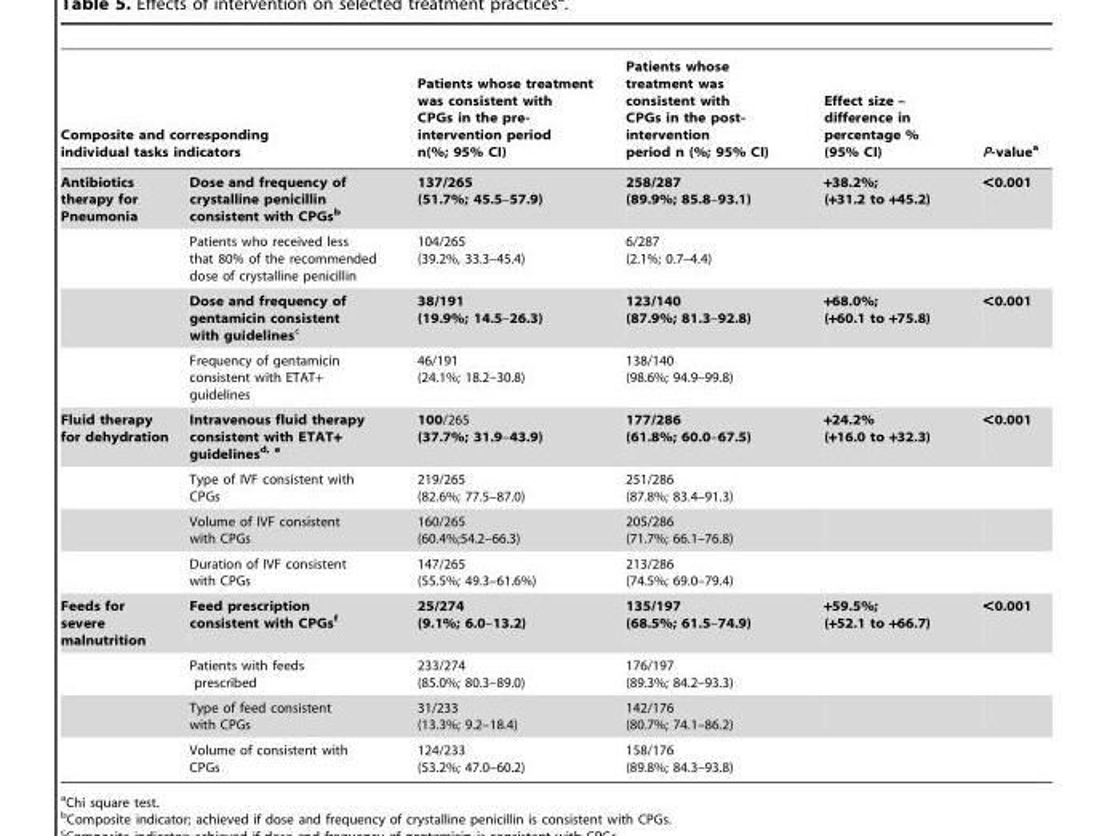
<table><thead><tr><td colspan="2">Composite and corresponding individual tasks indicators</td><td rowspan="2">Patients whose treatment was consistent with CPGs in the pre- intervention period n(%; 95% CI) 137/265 (51.7%; 45.5–57.9)</td><td rowspan="2">Patients whose treatment was consistent with CPGs in the post- intervention period n (%; 95% CI) 258/287 (89.9%; 85.8–93.1)</td><td rowspan="2">Effect size – difference in percentage % (95% CI) +38.2%; (+31.2 to +45.2)</td><td rowspan="2">P-value<sup>a</sup> &lt;0.001</td></tr><tr><td>Antibiotics therapy for Pneumonia</td><td>Dose and frequency of crystalline penicillin consistent with CPGsb</td></tr></thead><tbody><tr><td></td><td>Patients who received less that 80% of the recommended dose of crystalline penicillin</td><td>104/265 (39.2%, 33.3–45.4)</td><td>6/287 (2.1%; 0.7–4.4)</td><td></td><td></td></tr><tr><td></td><td>Dose and frequency of gentamicin consistent with guidelinesc</td><td>38/191 (19.9%; 14.5–26.3)</td><td>123/140 (87.9%; 81.3–92.8)</td><td>+68.0%; (+60.1 to +75.8)</td><td>&lt;0.001</td></tr><tr><td></td><td>Frequency of gentamicin consistent with ETAT+ guidelines</td><td>46/191 (24.1%; 18.2–30.8)</td><td>138/140 (98.6%; 94.9–99.8)</td><td></td><td></td></tr><tr><td rowspan="4">Fluid therapy for dehydration</td><td>Intravenous fluid therapy consistent with ETAT+ guidelinesd, e</td><td>100/265 (37.7%; 31.9–43.9)</td><td>177/286 (61.8%; 60.0–67.5)</td><td>+24.2% (+16.0 to +32.3)</td><td>&lt;0.001</td></tr><tr><td>Type of IVF consistent with CPGs</td><td>219/265 (82.6%; 77.5–87.0)</td><td>251/286 (87.8%; 83.4–91.3)</td><td></td><td></td></tr><tr><td>Volume of IVF consistent with CPGs</td><td>160/265 (60.4%;54.2–66.3)</td><td>205/286 (71.7%; 66.1–76.8)</td><td></td><td></td></tr><tr><td>Duration of IVF consistent with CPGs</td><td>147/265 (55.5%; 49.3–61.6%)</td><td>213/286 (74.5%; 69.0–79.4)</td><td></td><td></td></tr><tr><td rowspan="4">Feeds for severe malnutrition</td><td>Feed prescription consistent with CPGsf</td><td>25/274 (9.1%; 6.0–13.2)</td><td>135/197 (68.5%; 61.5–74.9)</td><td>+59.5%; (+52.1 to +66.7)</td><td>&lt;0.001</td></tr><tr><td>Patients with feeds prescribed</td><td>233/274 (85.0%; 80.3–89.0)</td><td>176/197 (89.3%; 84.2–93.3)</td><td></td><td></td></tr><tr><td>Type of feed consistent with CPGs</td><td>31/233 (13.3%; 9.2–18.4)</td><td>142/176 (80.7%; 74.1–86.2)</td><td></td><td></td></tr><tr><td>Volume of consistent with CPGs</td><td>124/233 (53.2%; 47.0–60.2)</td><td>158/176 (89.8%; 84.3–93.8)</td><td></td><td></td></tr></tbody></table>